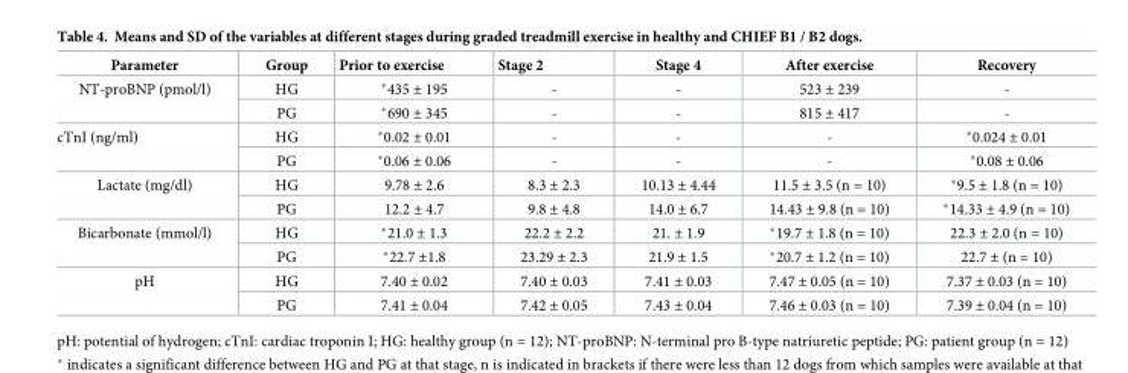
<table><thead><tr><td>Parameter</td><td>Group</td><td>Prior to exercise</td><td>Stage 2</td><td>Stage 4</td><td>After exercise</td><td>Recovery</td></tr></thead><tbody><tr><td rowspan="2">NT-proBNP (pmol/l)</td><td>HG</td><td>*435 ± 195</td><td>-</td><td>-</td><td>523 ± 239</td><td>-</td></tr><tr><td>PG</td><td>*690 ± 345</td><td>-</td><td>-</td><td>815 ± 417</td><td>-</td></tr><tr><td rowspan="2">cTnI (ng/ml)</td><td>HG</td><td>*0.02 ± 0.01</td><td>-</td><td>-</td><td>-</td><td>*0.024 ± 0.01</td></tr><tr><td>PG</td><td>*0.06 ± 0.06</td><td>-</td><td>-</td><td>-</td><td>*0.08 ± 0.06</td></tr><tr><td rowspan="2">Lactate (mg/dl)</td><td>HG</td><td>9.78 ± 2.6</td><td>8.3 ± 2.3</td><td>10.13 ± 4.44</td><td>11.5 ± 3.5 (n = 10)</td><td>*9.5 ± 1.8 (n = 10)</td></tr><tr><td>PG</td><td>12.2 ± 4.7</td><td>9.8 ± 4.8</td><td>14.0 ± 6.7</td><td>14.43 ± 9.8 (n = 10)</td><td>*14.33 ± 4.9 (n = 10)</td></tr><tr><td rowspan="2">Bicarbonate (mmol/l)</td><td>HG</td><td>*21.0 ± 1.3</td><td>22.2 ± 2.2</td><td>21. ± 1.9</td><td>*19.7 ± 1.8 (n = 10)</td><td>22.3 ± 2.0 (n = 10)</td></tr><tr><td>PG</td><td>*22.7 ±1.8</td><td>23.29 ± 2.3</td><td>21.9 ± 1.5</td><td>*20.7 ± 1.2 (n = 10)</td><td>22.7 ± (n = 10)</td></tr><tr><td rowspan="2">pH</td><td>HG</td><td>7.40 ± 0.02</td><td>7.40 ± 0.03</td><td>7.41 ± 0.03</td><td>7.47 ± 0.05 (n = 10)</td><td>7.37 ± 0.03 (n = 10)</td></tr><tr><td>PG</td><td>7.41 ± 0.04</td><td>7.42 ± 0.05</td><td>7.43 ± 0.04</td><td>7.46 ± 0.03 (n = 10)</td><td>7.39 ± 0.04 (n = 10)</td></tr></tbody></table>